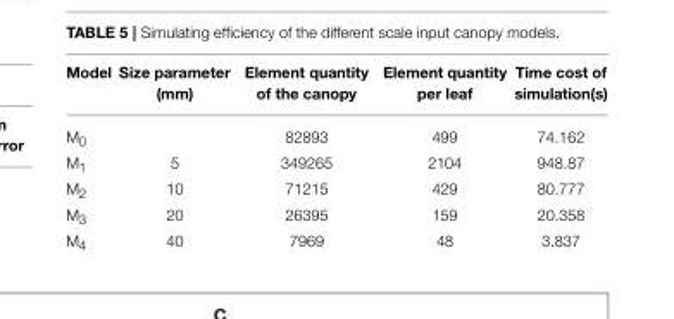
<table><thead><tr><td>Model</td><td>Size parameter (mm)</td><td>Element quantity of the canopy</td><td>Element quantity per leaf</td><td>Time cost of simulation(s)</td></tr></thead><tbody><tr><td>M<sub>0</sub></td><td></td><td>82893</td><td>499</td><td>74.162</td></tr><tr><td>M<sub>1</sub></td><td>5</td><td>349265</td><td>2104</td><td>948.87</td></tr><tr><td>M<sub>2</sub></td><td>10</td><td>71215</td><td>429</td><td>80.777</td></tr><tr><td>M<sub>3</sub></td><td>20</td><td>26395</td><td>159</td><td>20.358</td></tr><tr><td>M<sub>4</sub></td><td>40</td><td>7969</td><td>48</td><td>3.837</td></tr></tbody></table>